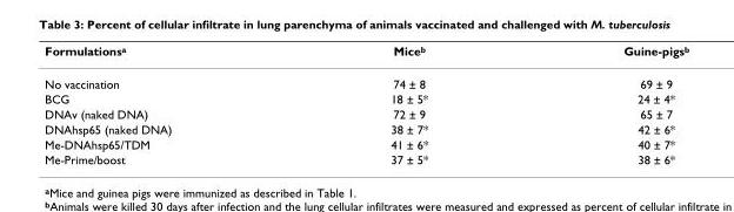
<table><thead><tr><td>Formulations<sup>a</sup></td><td>Mice<sup>b</sup></td><td>Guine-pigs<sup>b</sup></td></tr></thead><tbody><tr><td>No vaccination</td><td>74 ± 8</td><td>69 ± 9</td></tr><tr><td>BCG</td><td>18 ± 5*</td><td>24 ± 4*</td></tr><tr><td>DNAv (naked DNA)</td><td>72 ± 9</td><td>65 ± 7</td></tr><tr><td>DNAhsp65 (naked DNA)</td><td>38 ± 7*</td><td>42 ± 6*</td></tr><tr><td>Me-DNAhsp65/TDM</td><td>41 ± 6*</td><td>40 ± 7*</td></tr><tr><td>Me-Prime/boost</td><td>37 ± 5*</td><td>38 ± 6*</td></tr></tbody></table>